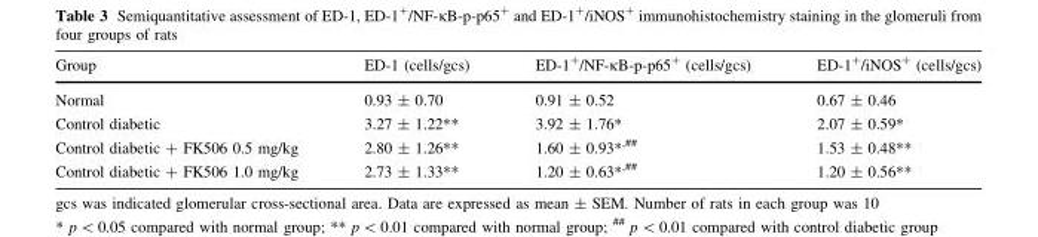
<table><thead><tr><td>Group</td><td>ED-1 (cells/gcs)</td><td>ED-1<sup>+</sup>/NF-κB-p-p65<sup>+</sup> (cells/gcs)</td><td>ED-1<sup>+</sup>/iNOS<sup>+</sup> (cells/gcs)</td></tr></thead><tbody><tr><td>Normal</td><td>0.93 ± 0.70</td><td>0.91 ± 0.52</td><td>0.67 ± 0.46</td></tr><tr><td>Control diabetic</td><td>3.27 ± 1.22**</td><td>3.92 ± 1.76*</td><td>2.07 ± 0.59*</td></tr><tr><td>Control diabetic + FK506 0.5 mg/kg</td><td>2.80 ± 1.26**</td><td>1.60 ± 0.93*<sup>,##</sup></td><td>1.53 ± 0.48**</td></tr><tr><td>Control diabetic + FK506 1.0 mg/kg</td><td>2.73 ± 1.33**</td><td>1.20 ± 0.63*<sup>,##</sup></td><td>1.20 ± 0.56**</td></tr></tbody></table>